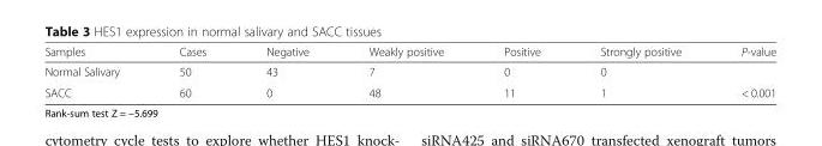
<table><thead><tr><td>Samples</td><td>Cases</td><td>Negative</td><td>Weakly positive</td><td>Positive</td><td>Strongly positive</td><td>P-value</td></tr></thead><tbody><tr><td>Normal Salivary</td><td>50</td><td>43</td><td>7</td><td>0</td><td>0</td><td></td></tr><tr><td>SACC</td><td>60</td><td>0</td><td>48</td><td>11</td><td>1</td><td>&lt; 0.001</td></tr></tbody></table>